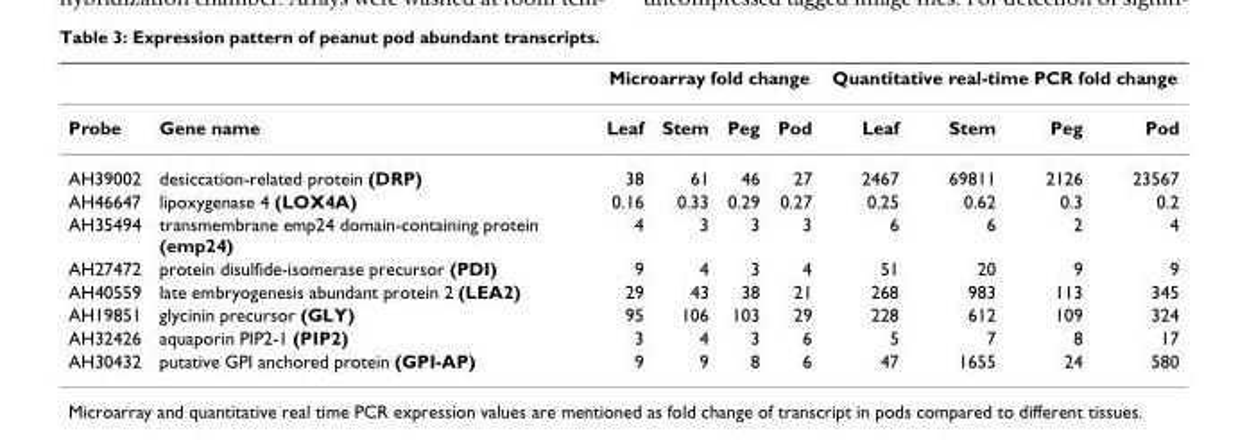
<table><thead><tr><td rowspan="2">Probe</td><td rowspan="2">Gene name</td><td colspan="4">Microarray fold change</td><td colspan="4">Quantitative real-time PCR fold change</td></tr><tr><td>Leaf</td><td>Stem</td><td>Peg</td><td>Pod</td><td>Leaf</td><td>Stem</td><td>Peg</td><td>Pod</td></tr></thead><tbody><tr><td>AH39002</td><td>desiccation-related protein (DRP)</td><td>38</td><td>61</td><td>46</td><td>27</td><td>2467</td><td>69811</td><td>2126</td><td>23567</td></tr><tr><td>AH46647</td><td>lipoxygenase 4 (LOX4A)</td><td>0.16</td><td>0.33</td><td>0.29</td><td>0.27</td><td>0.25</td><td>0.62</td><td>0.3</td><td>0.2</td></tr><tr><td>AH35494</td><td>transmembrane emp24 domain-containing protein (emp24)</td><td>4</td><td>3</td><td>3</td><td>3</td><td>6</td><td>6</td><td>2</td><td>4</td></tr><tr><td>AH27472</td><td>protein disulfide-isomerase precursor (PDI)</td><td>9</td><td>4</td><td>3</td><td>4</td><td>51</td><td>20</td><td>9</td><td>9</td></tr><tr><td>AH40559</td><td>late embryogenesis abundant protein 2 (LEA2)</td><td>29</td><td>43</td><td>38</td><td>21</td><td>268</td><td>983</td><td>113</td><td>345</td></tr><tr><td>AH19851</td><td>glycinin precursor (GLY)</td><td>95</td><td>106</td><td>103</td><td>29</td><td>228</td><td>612</td><td>109</td><td>324</td></tr><tr><td>AH32426</td><td>aquaporin PIP2-1 (PIP2)</td><td>3</td><td>4</td><td>3</td><td>6</td><td>5</td><td>7</td><td>8</td><td>17</td></tr><tr><td>AH30432</td><td>putative GPI anchored protein (GPI-AP)</td><td>9</td><td>9</td><td>8</td><td>6</td><td>47</td><td>1655</td><td>24</td><td>580</td></tr></tbody></table>